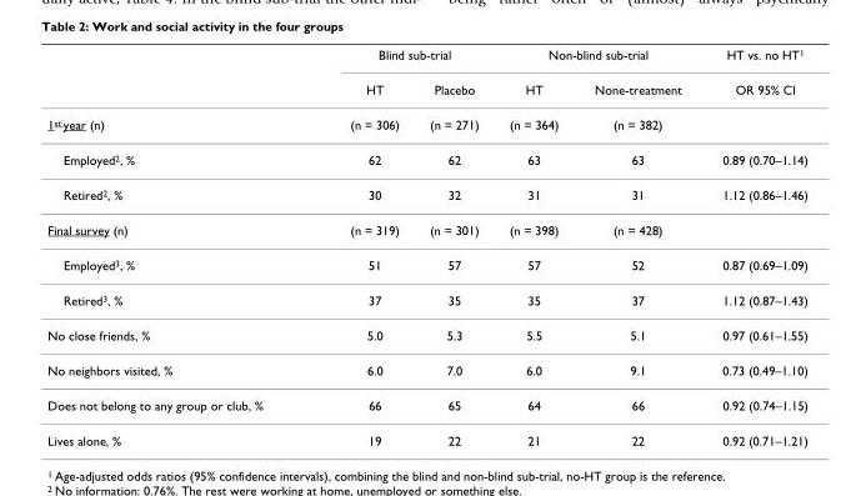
<table><thead><tr><td rowspan="2"></td><td colspan="2">Blind sub-trial</td><td colspan="2">Non-blind sub-trial</td><td rowspan="2">HT vs. no HT<sup>1</sup> OR 95% CI</td></tr><tr><td>HT</td><td>Placebo</td><td>HT</td><td>None-treatment</td></tr></thead><tbody><tr><td>1<sup>st</sup> year (n)</td><td>(n = 306)</td><td>(n = 271)</td><td>(n = 364)</td><td>(n = 382)</td><td></td></tr><tr><td>Employed<sup>2</sup>, %</td><td>62</td><td>62</td><td>63</td><td>63</td><td>0.89 (0.70–1.14)</td></tr><tr><td>Retired<sup>2</sup>, %</td><td>30</td><td>32</td><td>31</td><td>31</td><td>1.12 (0.86–1.46)</td></tr><tr><td>Final survey (n)</td><td>(n = 319)</td><td>(n = 301)</td><td>(n = 398)</td><td>(n = 428)</td><td></td></tr><tr><td>Employed<sup>3</sup>, %</td><td>51</td><td>57</td><td>57</td><td>52</td><td>0.87 (0.69–1.09)</td></tr><tr><td>Retired<sup>3</sup>, %</td><td>37</td><td>35</td><td>35</td><td>37</td><td>1.12 (0.87–1.43)</td></tr><tr><td>No close friends, %</td><td>5.0</td><td>5.3</td><td>5.5</td><td>5.1</td><td>0.97 (0.61–1.55)</td></tr><tr><td>No neighbors visited, %</td><td>6.0</td><td>7.0</td><td>6.0</td><td>9.1</td><td>0.73 (0.49–1.10)</td></tr><tr><td>Does not belong to any group or club, %</td><td>66</td><td>65</td><td>64</td><td>66</td><td>0.92 (0.74–1.15)</td></tr><tr><td>Lives alone, %</td><td>19</td><td>22</td><td>21</td><td>22</td><td>0.92 (0.71–1.21)</td></tr></tbody></table>